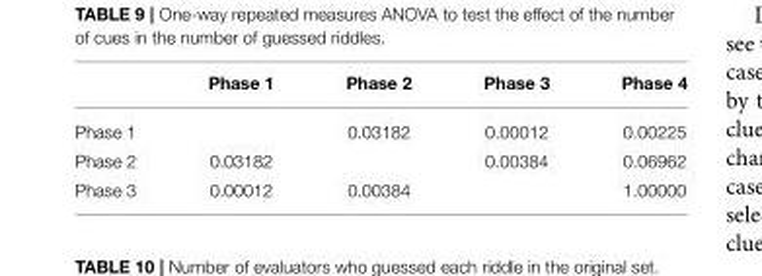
<table><thead><tr><td></td><td>Phase 1</td><td>Phase 2</td><td>Phase 3</td><td>Phase 4</td></tr></thead><tbody><tr><td>Phase 1</td><td></td><td>0.03182</td><td>0.00012</td><td>0.00225</td></tr><tr><td>Phase 2</td><td>0.03182</td><td></td><td>0.00384</td><td>0.06962</td></tr><tr><td>Phase 3</td><td>0.00012</td><td>0.00384</td><td></td><td>1.00000</td></tr></tbody></table>